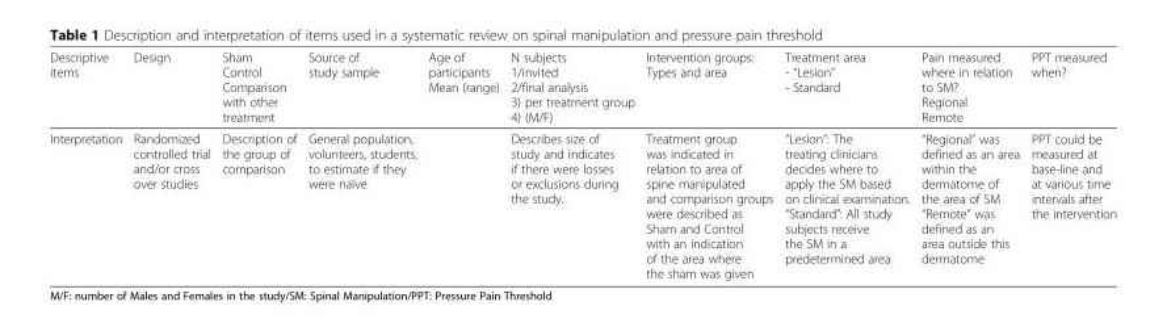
<table><thead><tr><td>Descriptive items</td><td>Design</td><td>Sham Control Comparison with other treatment</td><td>Source of study sample</td><td>Age of participants Mean (range)</td><td>N subjects 1/invited 2/final analysis 3) per treatment group 4) (M/F)</td><td>Intervention groups: Types and area</td><td>Treatment area - “Lesion” - Standard</td><td>Pain measured where in relation to SM? Regional Remote</td><td>PPT measured when?</td></tr></thead><tbody><tr><td>Interpretation</td><td>Randomized controlled trial and/or cross over studies</td><td>Description of the group of comparison</td><td>General population, volunteers, students, to estimate if they were naïve</td><td></td><td>Describes size of study and indicates if there were losses or exclusions during the study.</td><td>Treatment group was indicated in relation to area of spine manipulated and comparison groups were described as Sham and Control with an indication of the area where the sham was given</td><td>“Lesion”: The treating clinicians decides where to apply the SM based on clinical examination. “Standard”: All study subjects receive the SM in a predetermined area</td><td>“Regional” was defined as an area within the dermatome of the area of SM “Remote” was defined as an area outside this dermatome</td><td>PPT could be measured at base-line and at various time intervals after the intervention</td></tr></tbody></table>